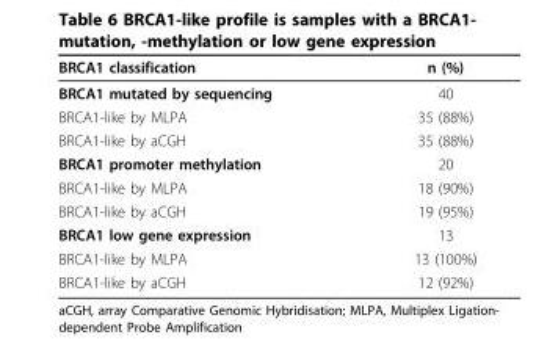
<table><thead><tr><td>BRCA1 classification</td><td>n (%)</td></tr></thead><tbody><tr><td>BRCA1 mutated by sequencing</td><td>40</td></tr><tr><td>BRCA1-like by MLPA</td><td>35 (88%)</td></tr><tr><td>BRCA1-like by aCGH</td><td>35 (88%)</td></tr><tr><td>BRCA1 promoter methylation</td><td>20</td></tr><tr><td>BRCA1-like by MLPA</td><td>18 (90%)</td></tr><tr><td>BRCA1-like by aCGH</td><td>19 (95%)</td></tr><tr><td>BRCA1 low gene expression</td><td>13</td></tr><tr><td>BRCA1-like by MLPA</td><td>13 (100%)</td></tr><tr><td>BRCA1-like by aCGH</td><td>12 (92%)</td></tr></tbody></table>